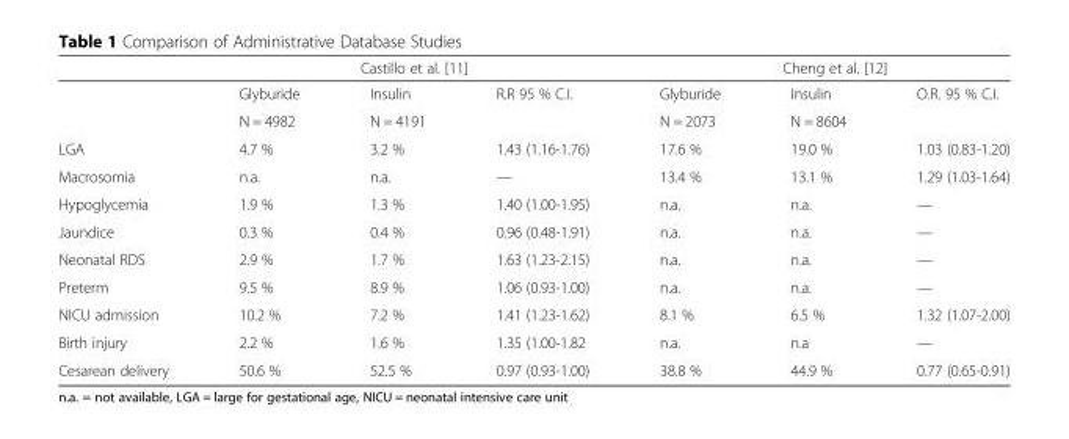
<table><thead><tr><td rowspan="2"></td><td colspan="3">Castillo et al. [11]</td><td colspan="3">Cheng et al. [12]</td></tr><tr><td>Glyburide</td><td>Insulin</td><td>R.R 95 % C.I.</td><td>Glyburide</td><td>Insulin</td><td>O.R. 95 % C.I.</td></tr></thead><tbody><tr><td></td><td>N = 4982</td><td>N = 4191</td><td></td><td>N = 2073</td><td>N = 8604</td><td></td></tr><tr><td>LGA</td><td>4.7 %</td><td>3.2 %</td><td>1.43 (1.16-1.76)</td><td>17.6 %</td><td>19.0 %</td><td>1.03 (0.83-1.20)</td></tr><tr><td>Macrosomia</td><td>n.a.</td><td>n.a.</td><td>—</td><td>13.4 %</td><td>13.1 %</td><td>1.29 (1.03-1.64)</td></tr><tr><td>Hypoglycemia</td><td>1.9 %</td><td>1.3 %</td><td>1.40 (1.00-1.95)</td><td>n.a.</td><td>n.a.</td><td>—</td></tr><tr><td>Jaundice</td><td>0.3 %</td><td>0.4 %</td><td>0.96 (0.48-1.91)</td><td>n.a.</td><td>n.a.</td><td>—</td></tr><tr><td>Neonatal RDS</td><td>2.9 %</td><td>1.7 %</td><td>1.63 (1.23-2.15)</td><td>n.a.</td><td>n.a.</td><td>—</td></tr><tr><td>Preterm</td><td>9.5 %</td><td>8.9 %</td><td>1.06 (0.93-1.00)</td><td>n.a.</td><td>n.a.</td><td>—</td></tr><tr><td>NICU admission</td><td>10.2 %</td><td>7.2 %</td><td>1.41 (1.23-1.62)</td><td>8.1 %</td><td>6.5 %</td><td>1.32 (1.07-2.00)</td></tr><tr><td>Birth injury</td><td>2.2 %</td><td>1.6 %</td><td>1.35 (1.00-1.82</td><td>n.a.</td><td>n.a</td><td>—</td></tr><tr><td>Cesarean delivery</td><td>50.6 %</td><td>52.5 %</td><td>0.97 (0.93-1.00)</td><td>38.8 %</td><td>44.9 %</td><td>0.77 (0.65-0.91)</td></tr></tbody></table>